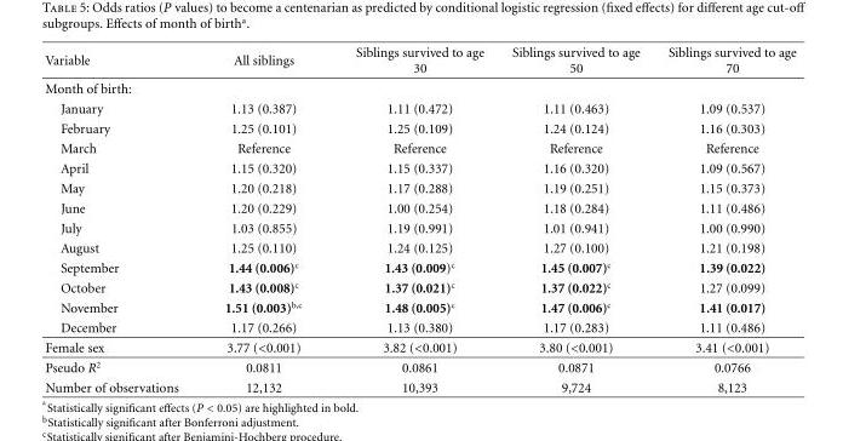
<table><thead><tr><td>Variable</td><td>All siblings</td><td>Siblings survived to age 30</td><td>Siblings survived to age 50</td><td>Siblings survived to age 70</td></tr></thead><tbody><tr><td colspan="5">Month of birth:</td></tr><tr><td>January</td><td>1.13 (0.387)</td><td>1.11 (0.472)</td><td>1.11 (0.463)</td><td>1.09 (0.537)</td></tr><tr><td>February</td><td>1.25 (0.101)</td><td>1.25 (0.109)</td><td>1.24 (0.124)</td><td>1.16 (0.303)</td></tr><tr><td>March</td><td>Reference</td><td>Reference</td><td>Reference</td><td>Reference</td></tr><tr><td>April</td><td>1.15 (0.320)</td><td>1.15 (0.337)</td><td>1.16 (0.320)</td><td>1.09 (0.567)</td></tr><tr><td>May</td><td>1.20 (0.218)</td><td>1.17 (0.288)</td><td>1.19 (0.251)</td><td>1.15 (0.373)</td></tr><tr><td>June</td><td>1.20 (0.229)</td><td>1.00 (0.254)</td><td>1.18 (0.284)</td><td>1.11 (0.486)</td></tr><tr><td>July</td><td>1.03 (0.855)</td><td>1.19 (0.991)</td><td>1.01 (0.941)</td><td>1.00 (0.990)</td></tr><tr><td>August</td><td>1.25 (0.110)</td><td>1.24 (0.125)</td><td>1.27 (0.100)</td><td>1.21 (0.198)</td></tr><tr><td>September</td><td>1.44 (0.006)<sup>c</sup></td><td>1.43 (0.009)<sup>c</sup></td><td>1.45 (0.007)<sup>c</sup></td><td>1.39 (0.022)</td></tr><tr><td>October</td><td>1.43 (0.008)<sup>c</sup></td><td>1.37 (0.021)<sup>c</sup></td><td>1.37 (0.022)<sup>c</sup></td><td>1.27 (0.099)</td></tr><tr><td>November</td><td>1.51 (0.003)<sup>b,c</sup></td><td>1.48 (0.005)<sup>c</sup></td><td>1.47 (0.006)<sup>c</sup></td><td>1.41 (0.017)</td></tr><tr><td>December</td><td>1.17 (0.266)</td><td>1.13 (0.380)</td><td>1.17 (0.283)</td><td>1.11 (0.486)</td></tr><tr><td>Female sex</td><td>3.77 (&lt;0.001)</td><td>3.82 (&lt;0.001)</td><td>3.80 (&lt;0.001)</td><td>3.41 (&lt;0.001)</td></tr><tr><td>Pseudo R<sup>2</sup></td><td>0.0811</td><td>0.0861</td><td>0.0871</td><td>0.0766</td></tr><tr><td>Number of observations</td><td>12,132</td><td>10,393</td><td>9,724</td><td>8,123</td></tr></tbody></table>